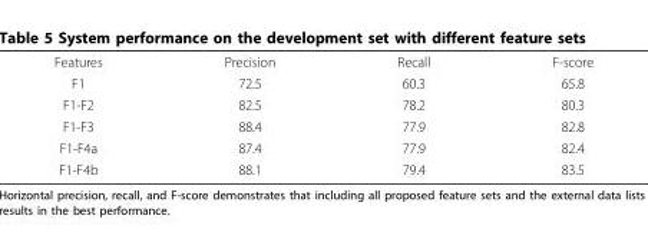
<table><tbody><tr><td>Features</td><td>Precision</td><td>Recall</td><td>F-score</td></tr><tr><td>F1</td><td>72.5</td><td>60.3</td><td>65.8</td></tr><tr><td>F1-F2</td><td>82.5</td><td>78.2</td><td>80.3</td></tr><tr><td>F1-F3</td><td>88.4</td><td>77.9</td><td>82.8</td></tr><tr><td>F1-F4a</td><td>87.4</td><td>77.9</td><td>82.4</td></tr><tr><td>F1-F4b</td><td>88.1</td><td>79.4</td><td>83.5</td></tr></tbody></table>